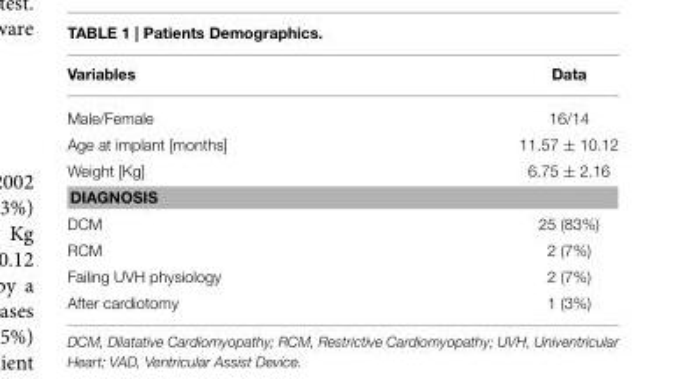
<table><thead><tr><td>Variables</td><td>Data</td></tr></thead><tbody><tr><td>Male/Female</td><td>16/14</td></tr><tr><td>Age at implant [months]</td><td>11.57 ± 10.12</td></tr><tr><td>Weight [Kg]</td><td>6.75 ± 2.16</td></tr><tr><td colspan="2">DIAGNOSIS</td></tr><tr><td>DCM</td><td>25 (83%)</td></tr><tr><td>RCM</td><td>2 (7%)</td></tr><tr><td>Failing UVH physiology</td><td>2 (7%)</td></tr><tr><td>After cardiotomy</td><td>1 (3%)</td></tr></tbody></table>